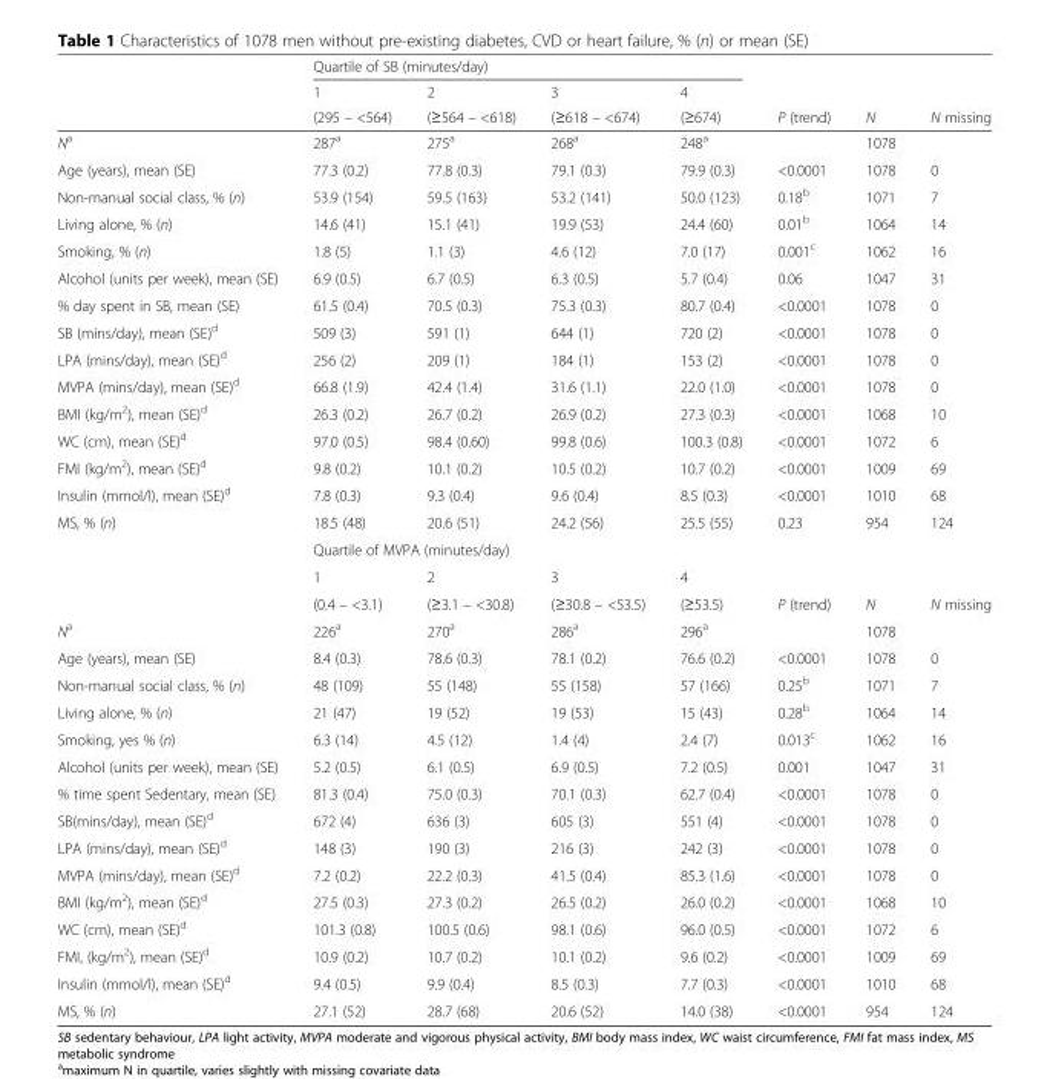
<table><thead><tr><td rowspan="3"></td><td colspan="4">Quartile of SB (minutes/day)</td><td rowspan="3">P (trend)</td><td rowspan="3">N</td><td rowspan="3">N missing</td></tr><tr><td rowspan="2">1 (295 – &lt;564)</td><td rowspan="2">2 (≥564 – &lt;618)</td><td rowspan="2">3 (≥618 – &lt;674)</td><td rowspan="2">4 (≥674)</td></tr><tr></tr></thead><tbody><tr><td>N<sup>a</sup></td><td>287<sup>a</sup></td><td>275<sup>a</sup></td><td>268<sup>a</sup></td><td>248<sup>a</sup></td><td></td><td>1078</td><td></td></tr><tr><td>Age (years), mean (SE)</td><td>77.3 (0.2)</td><td>77.8 (0.3)</td><td>79.1 (0.3)</td><td>79.9 (0.3)</td><td>&lt;0.0001</td><td>1078</td><td>0</td></tr><tr><td>Non-manual social class, % (n)</td><td>53.9 (154)</td><td>59.5 (163)</td><td>53.2 (141)</td><td>50.0 (123)</td><td>0.18<sup>b</sup></td><td>1071</td><td>7</td></tr><tr><td>Living alone, % (n)</td><td>14.6 (41)</td><td>15.1 (41)</td><td>19.9 (53)</td><td>24.4 (60)</td><td>0.01<sup>b</sup></td><td>1064</td><td>14</td></tr><tr><td>Smoking, % (n)</td><td>1.8 (5)</td><td>1.1 (3)</td><td>4.6 (12)</td><td>7.0 (17)</td><td>0.001<sup>c</sup></td><td>1062</td><td>16</td></tr><tr><td>Alcohol (units per week), mean (SE)</td><td>6.9 (0.5)</td><td>6.7 (0.5)</td><td>6.3 (0.5)</td><td>5.7 (0.4)</td><td>0.06</td><td>1047</td><td>31</td></tr><tr><td>% day spent in SB, mean (SE)</td><td>61.5 (0.4)</td><td>70.5 (0.3)</td><td>75.3 (0.3)</td><td>80.7 (0.4)</td><td>&lt;0.0001</td><td>1078</td><td>0</td></tr><tr><td>SB (mins/day), mean (SE)<sup>d</sup></td><td>509 (3)</td><td>591 (1)</td><td>644 (1)</td><td>720 (2)</td><td>&lt;0.0001</td><td>1078</td><td>0</td></tr><tr><td>LPA (mins/day), mean (SE)<sup>d</sup></td><td>256 (2)</td><td>209 (1)</td><td>184 (1)</td><td>153 (2)</td><td>&lt;0.0001</td><td>1078</td><td>0</td></tr><tr><td>MVPA (mins/day), mean (SE)<sup>d</sup></td><td>66.8 (1.9)</td><td>42.4 (1.4)</td><td>31.6 (1.1)</td><td>22.0 (1.0)</td><td>&lt;0.0001</td><td>1078</td><td>0</td></tr><tr><td>BMI (kg/m<sup>2</sup>), mean (SE)<sup>d</sup></td><td>26.3 (0.2)</td><td>26.7 (0.2)</td><td>26.9 (0.2)</td><td>27.3 (0.3)</td><td>&lt;0.0001</td><td>1068</td><td>10</td></tr><tr><td>WC (cm), mean (SE)<sup>d</sup></td><td>97.0 (0.5)</td><td>98.4 (0.60)</td><td>99.8 (0.6)</td><td>100.3 (0.8)</td><td>&lt;0.0001</td><td>1072</td><td>6</td></tr><tr><td>FMI (kg/m<sup>2</sup>), mean (SE)<sup>d</sup></td><td>9.8 (0.2)</td><td>10.1 (0.2)</td><td>10.5 (0.2)</td><td>10.7 (0.2)</td><td>&lt;0.0001</td><td>1009</td><td>69</td></tr><tr><td>Insulin (mmol/l), mean (SE)<sup>d</sup></td><td>7.8 (0.3)</td><td>9.3 (0.4)</td><td>9.6 (0.4)</td><td>8.5 (0.3)</td><td>&lt;0.0001</td><td>1010</td><td>68</td></tr><tr><td rowspan="4">MS, % (n)</td><td>18.5 (48)</td><td>20.6 (51)</td><td>24.2 (56)</td><td>25.5 (55)</td><td>0.23</td><td>954</td><td>124</td></tr><tr><td colspan="4">Quartile of MVPA (minutes/day)</td><td></td><td></td><td></td></tr><tr><td>1</td><td>2</td><td>3</td><td>4</td><td></td><td></td><td></td></tr><tr><td>(0.4 – &lt;3.1)</td><td>(≥3.1 – &lt;30.8)</td><td>(≥30.8 – &lt;53.5)</td><td>(≥53.5)</td><td>P (trend)</td><td>N</td><td>N missing</td></tr><tr><td>N<sup>a</sup></td><td>226<sup>a</sup></td><td>270<sup>a</sup></td><td>286<sup>a</sup></td><td>296<sup>a</sup></td><td></td><td>1078</td><td></td></tr><tr><td>Age (years), mean (SE)</td><td>8.4 (0.3)</td><td>78.6 (0.3)</td><td>78.1 (0.2)</td><td>76.6 (0.2)</td><td>&lt;0.0001</td><td>1078</td><td>0</td></tr><tr><td>Non-manual social class, % (n)</td><td>48 (109)</td><td>55 (148)</td><td>55 (158)</td><td>57 (166)</td><td>0.25<sup>b</sup></td><td>1071</td><td>7</td></tr><tr><td>Living alone, % (n)</td><td>21 (47)</td><td>19 (52)</td><td>19 (53)</td><td>15 (43)</td><td>0.28<sup>b</sup></td><td>1064</td><td>14</td></tr><tr><td>Smoking, yes % (n)</td><td>6.3 (14)</td><td>4.5 (12)</td><td>1.4 (4)</td><td>2.4 (7)</td><td>0.013<sup>c</sup></td><td>1062</td><td>16</td></tr><tr><td>Alcohol (units per week), mean (SE)</td><td>5.2 (0.5)</td><td>6.1 (0.5)</td><td>6.9 (0.5)</td><td>7.2 (0.5)</td><td>0.001</td><td>1047</td><td>31</td></tr><tr><td>% time spent Sedentary, mean (SE)</td><td>81.3 (0.4)</td><td>75.0 (0.3)</td><td>70.1 (0.3)</td><td>62.7 (0.4)</td><td>&lt;0.0001</td><td>1078</td><td>0</td></tr><tr><td>SB(mins/day), mean (SE)<sup>d</sup></td><td>672 (4)</td><td>636 (3)</td><td>605 (3)</td><td>551 (4)</td><td>&lt;0.0001</td><td>1078</td><td>0</td></tr><tr><td>LPA (mins/day), mean (SE)<sup>d</sup></td><td>148 (3)</td><td>190 (3)</td><td>216 (3)</td><td>242 (3)</td><td>&lt;0.0001</td><td>1078</td><td>0</td></tr><tr><td>MVPA (mins/day), mean (SE)<sup>d</sup></td><td>7.2 (0.2)</td><td>22.2 (0.3)</td><td>41.5 (0.4)</td><td>85.3 (1.6)</td><td>&lt;0.0001</td><td>1078</td><td>0</td></tr><tr><td>BMI (kg/m<sup>2</sup>), mean (SE)<sup>d</sup></td><td>27.5 (0.3)</td><td>27.3 (0.2)</td><td>26.5 (0.2)</td><td>26.0 (0.2)</td><td>&lt;0.0001</td><td>1068</td><td>10</td></tr><tr><td>WC (cm), mean (SE)<sup>d</sup></td><td>101.3 (0.8)</td><td>100.5 (0.6)</td><td>98.1 (0.6)</td><td>96.0 (0.5)</td><td>&lt;0.0001</td><td>1072</td><td>6</td></tr><tr><td>FMI, (kg/m<sup>2</sup>), mean (SE)<sup>d</sup></td><td>10.9 (0.2)</td><td>10.7 (0.2)</td><td>10.1 (0.2)</td><td>9.6 (0.2)</td><td>&lt;0.0001</td><td>1009</td><td>69</td></tr><tr><td>Insulin (mmol/l), mean (SE)<sup>d</sup></td><td>9.4 (0.5)</td><td>9.9 (0.4)</td><td>8.5 (0.3)</td><td>7.7 (0.3)</td><td>&lt;0.0001</td><td>1010</td><td>68</td></tr><tr><td>MS, % (n)</td><td>27.1 (52)</td><td>28.7 (68)</td><td>20.6 (52)</td><td>14.0 (38)</td><td>&lt;0.0001</td><td>954</td><td>124</td></tr></tbody></table>